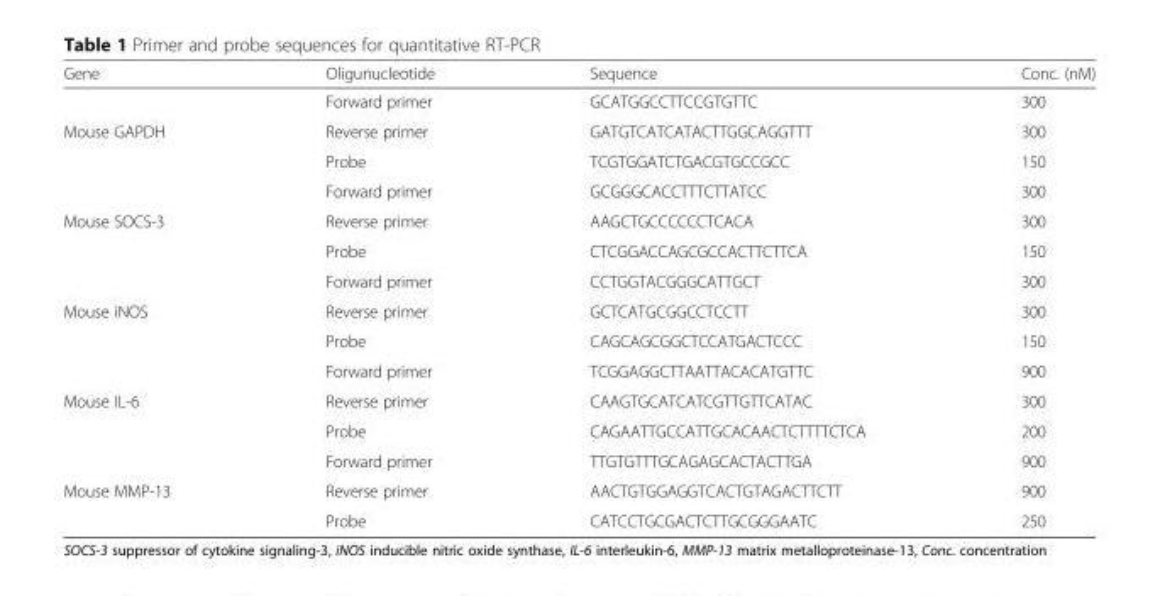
<table><thead><tr><td>Gene</td><td>Oligunucleotide</td><td>Sequence</td><td>Conc. (nM)</td></tr></thead><tbody><tr><td></td><td>Forward primer</td><td>GCATGGCCTTCCGTGTTC</td><td>300</td></tr><tr><td rowspan="3">Mouse GAPDH</td><td>Reverse primer</td><td>GATGTCATCATACTTGGCAGGTTT</td><td>300</td></tr><tr><td>Probe</td><td>TCGTGGATCTGACGTGCCGCC</td><td>150</td></tr><tr><td>Forward primer</td><td>GCGGGCACCTTTCTTATCC</td><td>300</td></tr><tr><td rowspan="3">Mouse SOCS-3</td><td>Reverse primer</td><td>AAGCTGCCCCCCTCACA</td><td>300</td></tr><tr><td>Probe</td><td>CTCGGACCAGCGCCACTTCTTCA</td><td>150</td></tr><tr><td>Forward primer</td><td>CCTGGTACGGGCATTGCT</td><td>300</td></tr><tr><td rowspan="3">Mouse iNOS</td><td>Reverse primer</td><td>GCTCATGCGGCCTCCTT</td><td>300</td></tr><tr><td>Probe</td><td>CAGCAGCGGCTCCATGACTCCC</td><td>150</td></tr><tr><td>Forward primer</td><td>TCGGAGGCTTAATTACACATGTTC</td><td>900</td></tr><tr><td rowspan="3">Mouse IL-6</td><td>Reverse primer</td><td>CAAGTGCATCATCGTTGTTCATAC</td><td>300</td></tr><tr><td>Probe</td><td>CAGAATTGCCATTGCACAACTCTTTTCTCA</td><td>200</td></tr><tr><td>Forward primer</td><td>TTGTGTTTGCAGAGCACTACTTGA</td><td>900</td></tr><tr><td rowspan="2">Mouse MMP-13</td><td>Reverse primer</td><td>AACTGTGGAGGTCACTGTAGACTTCTT</td><td>900</td></tr><tr><td>Probe</td><td>CATCCTGCGACTCTTGCGGGAATC</td><td>250</td></tr></tbody></table>